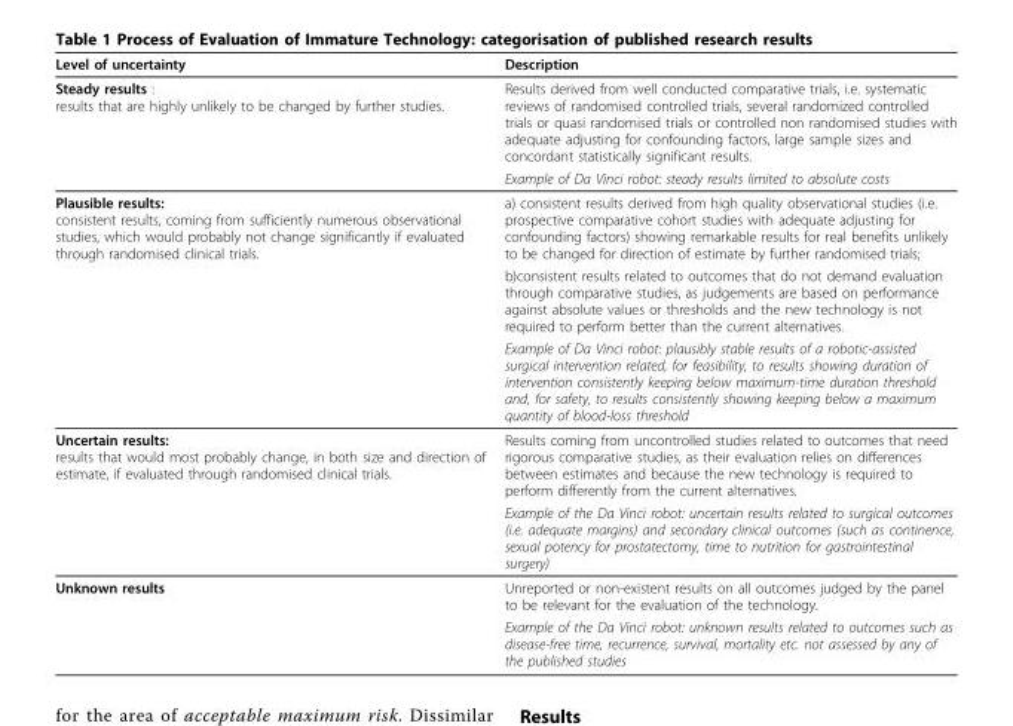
<table><thead><tr><td>Level of uncertainty</td><td>Description</td></tr></thead><tbody><tr><td rowspan="2">Steady results : results that are highly unlikely to be changed by further studies.</td><td>Results derived from well conducted comparative trials, i.e. systematic reviews of randomised controlled trials, several randomized controlled trials or quasi randomised trials or controlled non randomised studies with adequate adjusting for confounding factors, large sample sizes and concordant statistically significant results.</td></tr><tr><td>Example of Da Vinci robot: steady results limited to absolute costs</td></tr><tr><td rowspan="3">Plausible results: consistent results, coming from sufficiently numerous observational studies, which would probably not change significantly if evaluated through randomised clinical trials.</td><td>a) consistent results derived from high quality observational studies (i.e. prospective comparative cohort studies with adequate adjusting for confounding factors) showing remarkable results for real benefits unlikely to be changed for direction of estimate by further randomised trials;</td></tr><tr><td>b)consistent results related to outcomes that do not demand evaluation through comparative studies, as judgements are based on performance against absolute values or thresholds and the new technology is not required to perform better than the current alternatives.</td></tr><tr><td>Example of Da Vinci robot: plausibly stable results of a robotic-assisted surgical intervention related, for feasibility, to results showing duration of intervention consistently keeping below maximum-time duration threshold and, for safety, to results consistently showing keeping below a maximum quantity of blood-loss threshold</td></tr><tr><td rowspan="2">Uncertain results: results that would most probably change, in both size and direction of estimate, if evaluated through randomised clinical trials.</td><td>Results coming from uncontrolled studies related to outcomes that need rigorous comparative studies, as their evaluation relies on differences between estimates and because the new technology is required to perform differently from the current alternatives.</td></tr><tr><td>Example of the Da Vinci robot: uncertain results related to surgical outcomes (i.e. adequate margins) and secondary clinical outcomes (such as continence, sexual potency for prostatectomy, time to nutrition for gastrointestinal surgery)</td></tr><tr><td rowspan="2">Unknown results</td><td>Unreported or non-existent results on all outcomes judged by the panel to be relevant for the evaluation of the technology.</td></tr><tr><td>Example of the Da Vinci robot: unknown results related to outcomes such as disease-free time, recurrence, survival, mortality etc. not assessed by any of the published studies</td></tr></tbody></table>